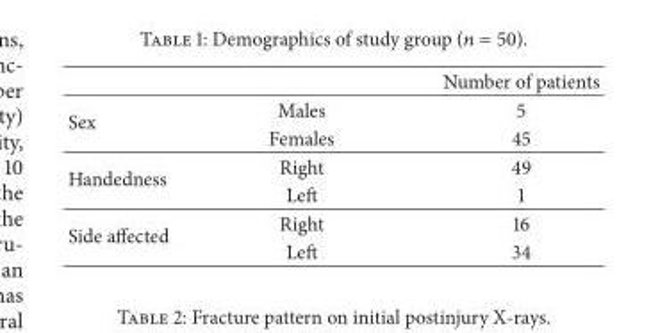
<table><thead><tr><td></td><td></td><td>Number of patients</td></tr></thead><tbody><tr><td rowspan="2">Sex</td><td>Males</td><td>5</td></tr><tr><td>Females</td><td>45</td></tr><tr><td rowspan="2">Handedness</td><td>Right</td><td>49</td></tr><tr><td>Left</td><td>1</td></tr><tr><td rowspan="2">Side affected</td><td>Right</td><td>16</td></tr><tr><td>Left</td><td>34</td></tr></tbody></table>